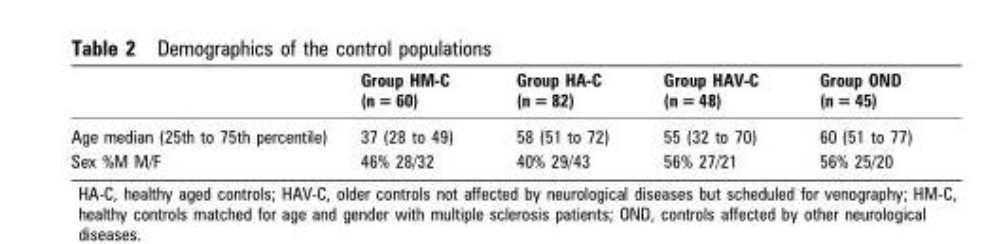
<table><thead><tr><td></td><td>Group HM-C (n = 60)</td><td>Group HA-C (n = 82)</td><td>Group HAV-C (n = 48)</td><td>Group OND (n = 45)</td></tr></thead><tbody><tr><td>Age median (25th to 75th percentile)</td><td>37 (28 to 49)</td><td>58 (51 to 72)</td><td>55 (32 to 70)</td><td>60 (51 to 77)</td></tr><tr><td>Sex %M M/F</td><td>46% 28/32</td><td>40% 29/43</td><td>56% 27/21</td><td>56% 25/20</td></tr></tbody></table>